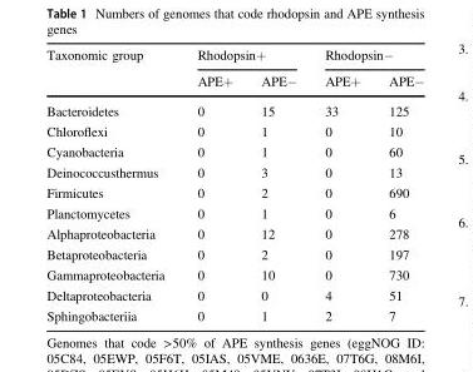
<table><thead><tr><td rowspan="2">Taxonomic group</td><td colspan="2">Rhodopsin+</td><td colspan="2">Rhodopsin−</td></tr><tr><td>APE+</td><td>APE−</td><td>APE+</td><td>APE−</td></tr></thead><tbody><tr><td>Bacteroidetes</td><td>0</td><td>15</td><td>33</td><td>125</td></tr><tr><td>Chloroflexi</td><td>0</td><td>1</td><td>0</td><td>10</td></tr><tr><td>Cyanobacteria</td><td>0</td><td>1</td><td>0</td><td>60</td></tr><tr><td>Deinococcusthermus</td><td>0</td><td>3</td><td>0</td><td>13</td></tr><tr><td>Firmicutes</td><td>0</td><td>2</td><td>0</td><td>690</td></tr><tr><td>Planctomycetes</td><td>0</td><td>1</td><td>0</td><td>6</td></tr><tr><td>Alphaproteobacteria</td><td>0</td><td>12</td><td>0</td><td>278</td></tr><tr><td>Betaproteobacteria</td><td>0</td><td>2</td><td>0</td><td>197</td></tr><tr><td>Gammaproteobacteria</td><td>0</td><td>10</td><td>0</td><td>730</td></tr><tr><td>Deltaproteobacteria</td><td>0</td><td>0</td><td>4</td><td>51</td></tr><tr><td>Sphingobacteriia</td><td>0</td><td>1</td><td>2</td><td>7</td></tr></tbody></table>